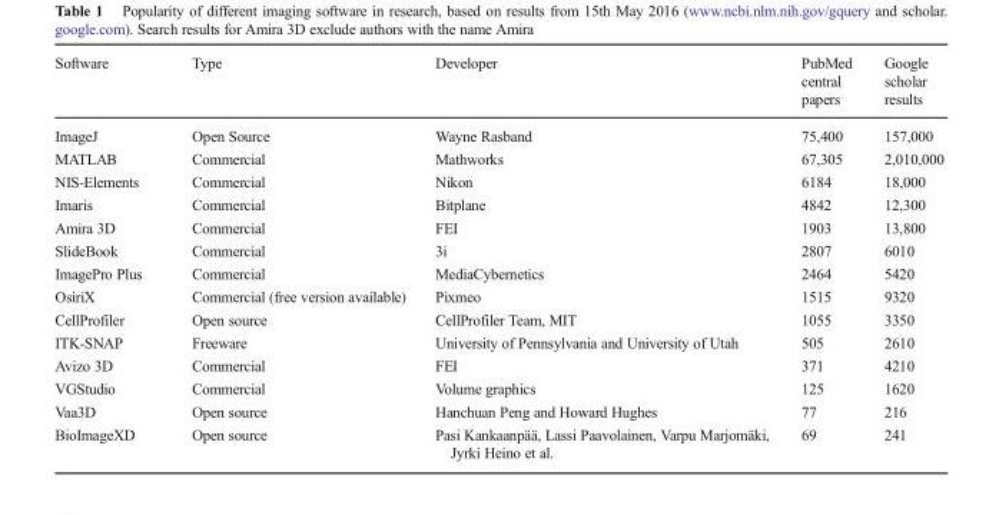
<table><thead><tr><td>Software</td><td>Type</td><td>Developer</td><td>PubMed central papers</td><td>Google scholar results</td></tr></thead><tbody><tr><td>ImageJ</td><td>Open Source</td><td>Wayne Rasband</td><td>75,400</td><td>157,000</td></tr><tr><td>MATLAB</td><td>Commercial</td><td>Mathworks</td><td>67,305</td><td>2,010,000</td></tr><tr><td>NIS-Elements</td><td>Commercial</td><td>Nikon</td><td>6184</td><td>18,000</td></tr><tr><td>Imaris</td><td>Commercial</td><td>Bitplane</td><td>4842</td><td>12,300</td></tr><tr><td>Amira 3D</td><td>Commercial</td><td>FEI</td><td>1903</td><td>13,800</td></tr><tr><td>SlideBook</td><td>Commercial</td><td>3i</td><td>2807</td><td>6010</td></tr><tr><td>ImagePro Plus</td><td>Commercial</td><td>MediaCybernetics</td><td>2464</td><td>5420</td></tr><tr><td>OsiriX</td><td>Commercial (free version available)</td><td>Pixmeo</td><td>1515</td><td>9320</td></tr><tr><td>CellProfiler</td><td>Open source</td><td>CellProfiler Team, MIT</td><td>1055</td><td>3350</td></tr><tr><td>ITK-SNAP</td><td>Freeware</td><td>University of Pennsylvania and University of Utah</td><td>505</td><td>2610</td></tr><tr><td>Avizo 3D</td><td>Commercial</td><td>FEI</td><td>371</td><td>4210</td></tr><tr><td>VGStudio</td><td>Commercial</td><td>Volume graphics</td><td>125</td><td>1620</td></tr><tr><td>Vaa3D</td><td>Open source</td><td>Hanchuan Peng and Howard Hughes</td><td>77</td><td>216</td></tr><tr><td>BioImageXD</td><td>Open source</td><td>Pasi Kankaanpää, Lassi Paavolainen, Varpu Marjomäki, Jyrki Heino et al.</td><td>69</td><td>241</td></tr></tbody></table>